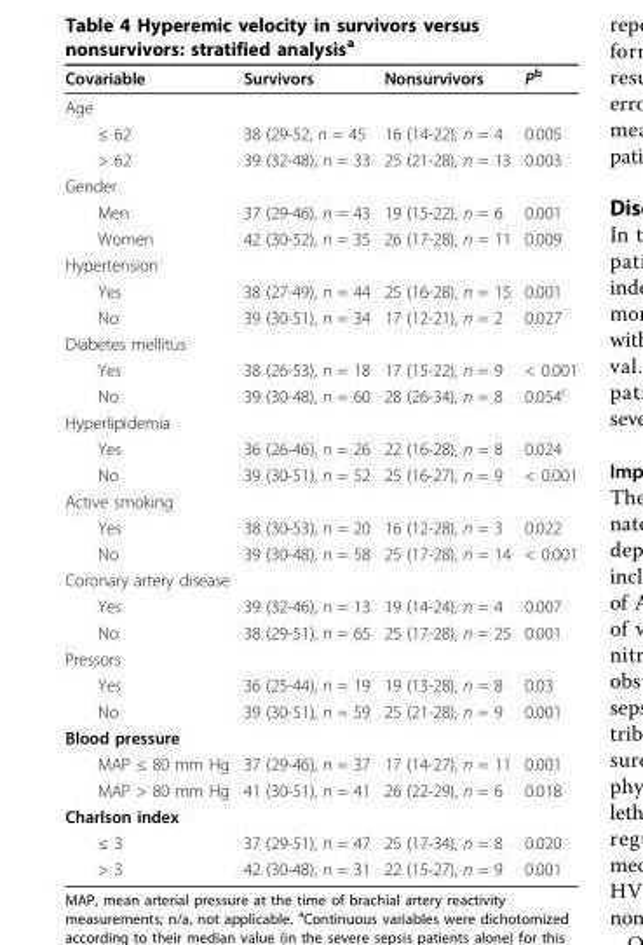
<table><tbody><tr><td>Covariable</td><td>Survivors</td><td>Nonsurvivors</td><td>P<sup>b</sup></td></tr><tr><td colspan="4">Age</td></tr><tr><td>≤ 62</td><td>38 (29-52, n = 45</td><td>16 (14-22), n = 4</td><td>0.005</td></tr><tr><td>&gt; 62</td><td>39 (32-48), n = 33</td><td>25 (21-28), n = 13</td><td>0.003</td></tr><tr><td colspan="4">Gender</td></tr><tr><td>Men</td><td>37 (29-46), n = 43</td><td>19 (15-22), n = 6</td><td>0.001</td></tr><tr><td>Women</td><td>42 (30-52), n = 35</td><td>26 (17-28), n = 11</td><td>0.009</td></tr><tr><td colspan="4">Hypertension</td></tr><tr><td>Yes</td><td>38 (27-49), n = 44</td><td>25 (16-28), n = 15</td><td>0.001</td></tr><tr><td>No</td><td>39 (30-51), n = 34</td><td>17 (12-21), n = 2</td><td>0.027</td></tr><tr><td colspan="4">Diabetes mellitus</td></tr><tr><td>Yes</td><td>38 (26-53), n = 18</td><td>17 (15-22), n = 9</td><td>&lt; 0.001</td></tr><tr><td>No</td><td>39 (30-48), n = 60</td><td>28 (26-34), n = 8</td><td>0.054<sup>c</sup></td></tr><tr><td colspan="4">Hyperlipidemia</td></tr><tr><td>Yes</td><td>36 (26-46), n = 26</td><td>22 (16-28), n = 8</td><td>0.024</td></tr><tr><td>No</td><td>39 (30-51), n = 52</td><td>25 (16-27), n = 9</td><td>&lt; 0.001</td></tr><tr><td colspan="4">Active smoking</td></tr><tr><td>Yes</td><td>38 (30-53), n = 20</td><td>16 (12-28), n = 3</td><td>0.022</td></tr><tr><td>No</td><td>39 (30-48), n = 58</td><td>25 (17-28), n = 14</td><td>&lt; 0.001</td></tr><tr><td colspan="4">Coronary artery disease</td></tr><tr><td>Yes</td><td>39 (32-46), n = 13</td><td>19 (14-24), n = 4</td><td>0.007</td></tr><tr><td>No</td><td>38 (29-51), n = 65</td><td>25 (17-28), n = 25</td><td>0.001</td></tr><tr><td colspan="4">Pressors</td></tr><tr><td>Yes</td><td>36 (25-44), n = 19</td><td>19 (13-28), n = 8</td><td>0.03</td></tr><tr><td>No</td><td>39 (30-51), n = 59</td><td>25 (21-28), n = 9</td><td>0.001</td></tr><tr><td colspan="4">Blood pressure</td></tr><tr><td>MAP ≤ 80 mm Hg</td><td>37 (29-46), n = 37</td><td>17 (14-27), n = 11</td><td>0.001</td></tr><tr><td>MAP &gt; 80 mm Hg</td><td>41 (30-51), n = 41</td><td>26 (22-29), n = 6</td><td>0.018</td></tr><tr><td colspan="4">Charlson index</td></tr><tr><td>≤ 3</td><td>37 (29-51), n = 47</td><td>25 (17-34), n = 8</td><td>0.020</td></tr><tr><td>&gt; 3</td><td>42 (30-48), n = 31</td><td>22 (15-27), n = 9</td><td>0.001</td></tr></tbody></table>